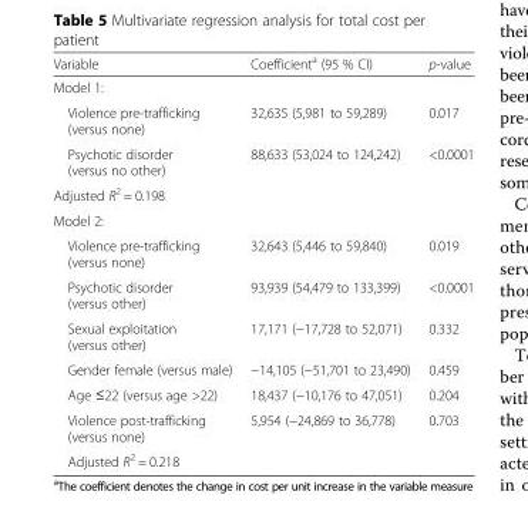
<table><thead><tr><td>Variable</td><td>Coefficient<sup>a</sup> (95 % CI)</td><td>p-value</td></tr></thead><tbody><tr><td colspan="3">Model 1:</td></tr><tr><td>Violence pre-trafficking (versus none)</td><td>32,635 (5,981 to 59,289)</td><td>0.017</td></tr><tr><td>Psychotic disorder (versus no other)</td><td>88,633 (53,024 to 124,242)</td><td>&lt;0.0001</td></tr><tr><td colspan="3">Adjusted R<sup>2</sup> = 0.198</td></tr><tr><td colspan="3">Model 2:</td></tr><tr><td>Violence pre-trafficking (versus none)</td><td>32,643 (5,446 to 59,840)</td><td>0.019</td></tr><tr><td>Psychotic disorder (versus other)</td><td>93,939 (54,479 to 133,399)</td><td>&lt;0.0001</td></tr><tr><td>Sexual exploitation (versus other)</td><td>17,171 (−17,728 to 52,071)</td><td>0.332</td></tr><tr><td>Gender female (versus male)</td><td>−14,105 (−51,701 to 23,490)</td><td>0.459</td></tr><tr><td>Age ≤22 (versus age &gt;22)</td><td>18,437 (−10,176 to 47,051)</td><td>0.204</td></tr><tr><td>Violence post-trafficking (versus none)</td><td>5,954 (−24,869 to 36,778)</td><td>0.703</td></tr><tr><td>Adjusted R<sup>2</sup> = 0.218</td><td></td><td></td></tr></tbody></table>